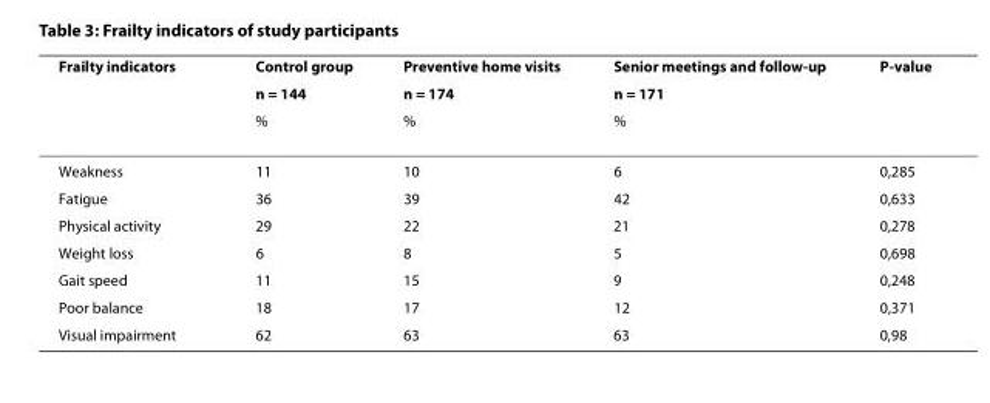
<table><thead><tr><td rowspan="3">Frailty indicators</td><td rowspan="3">Control group n = 144 %</td><td rowspan="3">Preventive home visits n = 174 %</td><td rowspan="3">Senior meetings and follow-up n = 171 %</td><td rowspan="3">P-value</td></tr><tr></tr><tr></tr></thead><tbody><tr><td>Weakness</td><td>11</td><td>10</td><td>6</td><td>0,285</td></tr><tr><td>Fatigue</td><td>36</td><td>39</td><td>42</td><td>0,633</td></tr><tr><td>Physical activity</td><td>29</td><td>22</td><td>21</td><td>0,278</td></tr><tr><td>Weight loss</td><td>6</td><td>8</td><td>5</td><td>0,698</td></tr><tr><td>Gait speed</td><td>11</td><td>15</td><td>9</td><td>0,248</td></tr><tr><td>Poor balance</td><td>18</td><td>17</td><td>12</td><td>0,371</td></tr><tr><td>Visual impairment</td><td>62</td><td>63</td><td>63</td><td>0,98</td></tr></tbody></table>